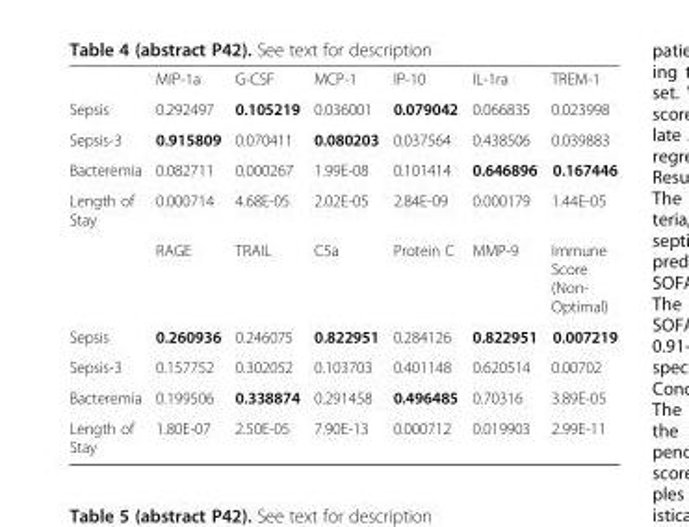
<table><thead><tr><td></td><td>MIP-1a</td><td>G-CSF</td><td>MCP-1</td><td>IP-10</td><td>IL-1ra</td><td>TREM-1</td></tr></thead><tbody><tr><td>Sepsis</td><td>0.292497</td><td>0.105219</td><td>0.036001</td><td>0.079042</td><td>0.066835</td><td>0.023998</td></tr><tr><td>Sepsis-3</td><td>0.915809</td><td>0.070411</td><td>0.080203</td><td>0.037564</td><td>0.438506</td><td>0.039883</td></tr><tr><td>Bacteremia</td><td>0.082711</td><td>0.000267</td><td>1.99E-08</td><td>0.101414</td><td>0.646896</td><td>0.167446</td></tr><tr><td rowspan="2">Length of Stay</td><td>0.000714</td><td>4.68E-05</td><td>2.02E-05</td><td>2.84E-09</td><td>0.000179</td><td>1.44E-05</td></tr><tr><td>RAGE</td><td>TRAIL</td><td>C5a</td><td>Protein C</td><td>MMP-9</td><td>Immune Score (Non- Optimal)</td></tr><tr><td>Sepsis</td><td>0.260936</td><td>0.246075</td><td>0.822951</td><td>0.284126</td><td>0.822951</td><td>0.007219</td></tr><tr><td>Sepsis-3</td><td>0.157752</td><td>0.302052</td><td>0.103703</td><td>0.401148</td><td>0.620514</td><td>0.00702</td></tr><tr><td>Bacteremia</td><td>0.199506</td><td>0.338874</td><td>0.291458</td><td>0.496485</td><td>0.70316</td><td>3.89E-05</td></tr><tr><td>Length of Stay</td><td>1.80E-07</td><td>2.50E-05</td><td>7.90E-13</td><td>0.000712</td><td>0.019903</td><td>2.99E-11</td></tr></tbody></table>